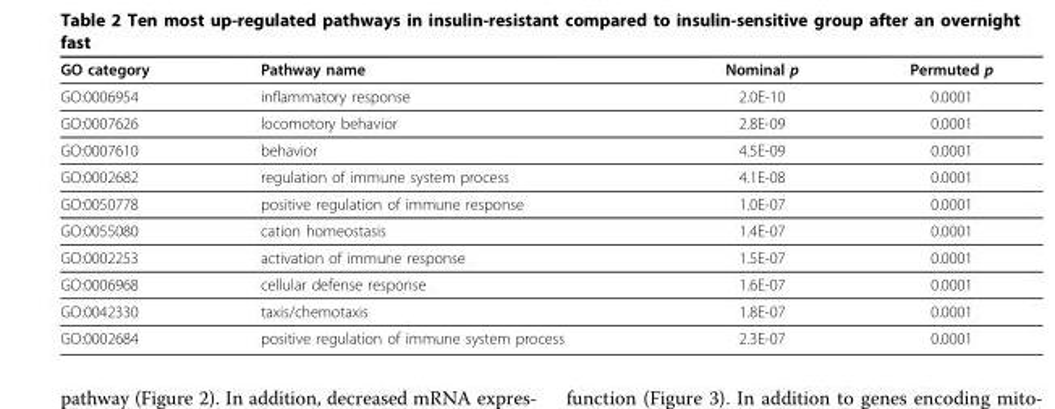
<table><thead><tr><td>GO category</td><td>Pathway name</td><td>Nominal p</td><td>Permuted p</td></tr></thead><tbody><tr><td>GO:0006954</td><td>inflammatory response</td><td>2.0E-10</td><td>0.0001</td></tr><tr><td>GO:0007626</td><td>locomotory behavior</td><td>2.8E-09</td><td>0.0001</td></tr><tr><td>GO:0007610</td><td>behavior</td><td>4.5E-09</td><td>0.0001</td></tr><tr><td>GO:0002682</td><td>regulation of immune system process</td><td>4.1E-08</td><td>0.0001</td></tr><tr><td>GO:0050778</td><td>positive regulation of immune response</td><td>1.0E-07</td><td>0.0001</td></tr><tr><td>GO:0055080</td><td>cation homeostasis</td><td>1.4E-07</td><td>0.0001</td></tr><tr><td>GO:0002253</td><td>activation of immune response</td><td>1.5E-07</td><td>0.0001</td></tr><tr><td>GO:0006968</td><td>cellular defense response</td><td>1.6E-07</td><td>0.0001</td></tr><tr><td>GO:0042330</td><td>taxis/chemotaxis</td><td>1.8E-07</td><td>0.0001</td></tr><tr><td>GO:0002684</td><td>positive regulation of immune system process</td><td>2.3E-07</td><td>0.0001</td></tr></tbody></table>